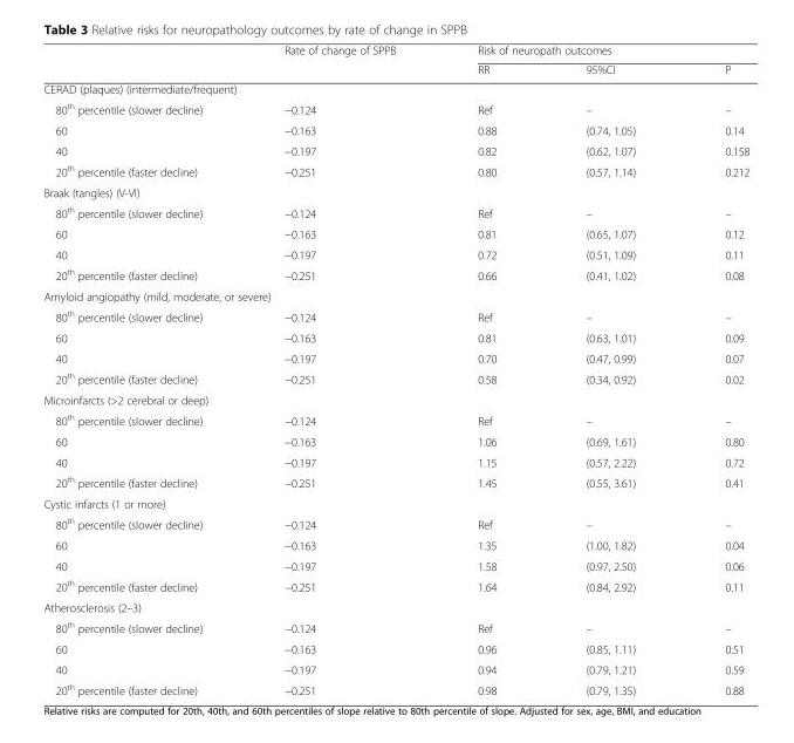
<table><thead><tr><td rowspan="2"></td><td rowspan="2">Rate of change of SPPB</td><td colspan="3">Risk of neuropath outcomes</td></tr><tr><td>RR</td><td>95%CI</td><td>P</td></tr></thead><tbody><tr><td colspan="5">CERAD (plaques) (intermediate/frequent)</td></tr><tr><td>80<sup>th</sup> percentile (slower decline)</td><td>−0.124</td><td>Ref</td><td>–</td><td>–</td></tr><tr><td>60</td><td>−0.163</td><td>0.88</td><td>(0.74, 1.05)</td><td>0.14</td></tr><tr><td>40</td><td>−0.197</td><td>0.82</td><td>(0.62, 1.07)</td><td>0.158</td></tr><tr><td>20<sup>th</sup> percentile (faster decline)</td><td>−0.251</td><td>0.80</td><td>(0.57, 1.14)</td><td>0.212</td></tr><tr><td colspan="5">Braak (tangles) (V-VI)</td></tr><tr><td>80<sup>th</sup> percentile (slower decline)</td><td>−0.124</td><td>Ref</td><td>–</td><td>–</td></tr><tr><td>60</td><td>−0.163</td><td>0.81</td><td>(0.65, 1.07)</td><td>0.12</td></tr><tr><td>40</td><td>−0.197</td><td>0.72</td><td>(0.51, 1.09)</td><td>0.11</td></tr><tr><td>20<sup>th</sup> percentile (faster decline)</td><td>−0.251</td><td>0.66</td><td>(0.41, 1.02)</td><td>0.08</td></tr><tr><td colspan="5">Amyloid angiopathy (mild, moderate, or severe)</td></tr><tr><td>80<sup>th</sup> percentile (slower decline)</td><td>−0.124</td><td>Ref</td><td>–</td><td>–</td></tr><tr><td>60</td><td>−0.163</td><td>0.81</td><td>(0.63, 1.01)</td><td>0.09</td></tr><tr><td>40</td><td>−0.197</td><td>0.70</td><td>(0.47, 0.99)</td><td>0.07</td></tr><tr><td>20<sup>th</sup> percentile (faster decline)</td><td>−0.251</td><td>0.58</td><td>(0.34, 0.92)</td><td>0.02</td></tr><tr><td colspan="5">Microinfarcts (&gt;2 cerebral or deep)</td></tr><tr><td>80<sup>th</sup> percentile (slower decline)</td><td>−0.124</td><td>Ref</td><td>–</td><td>–</td></tr><tr><td>60</td><td>−0.163</td><td>1.06</td><td>(0.69, 1.61)</td><td>0.80</td></tr><tr><td>40</td><td>−0.197</td><td>1.15</td><td>(0.57, 2.22)</td><td>0.72</td></tr><tr><td>20<sup>th</sup> percentile (faster decline)</td><td>−0.251</td><td>1.45</td><td>(0.55, 3.61)</td><td>0.41</td></tr><tr><td colspan="5">Cystic infarcts (1 or more)</td></tr><tr><td>80<sup>th</sup> percentile (slower decline)</td><td>−0.124</td><td>Ref</td><td>–</td><td>–</td></tr><tr><td>60</td><td>−0.163</td><td>1.35</td><td>(1.00, 1.82)</td><td>0.04</td></tr><tr><td>40</td><td>−0.197</td><td>1.58</td><td>(0.97, 2.50)</td><td>0.06</td></tr><tr><td>20<sup>th</sup> percentile (faster decline)</td><td>−0.251</td><td>1.64</td><td>(0.84, 2.92)</td><td>0.11</td></tr><tr><td colspan="5">Atherosclerosis (2–3)</td></tr><tr><td>80<sup>th</sup> percentile (slower decline)</td><td>−0.124</td><td>Ref</td><td>–</td><td>–</td></tr><tr><td>60</td><td>−0.163</td><td>0.96</td><td>(0.85, 1.11)</td><td>0.51</td></tr><tr><td>40</td><td>−0.197</td><td>0.94</td><td>(0.79, 1.21)</td><td>0.59</td></tr><tr><td>20<sup>th</sup> percentile (faster decline)</td><td>−0.251</td><td>0.98</td><td>(0.79, 1.35)</td><td>0.88</td></tr></tbody></table>